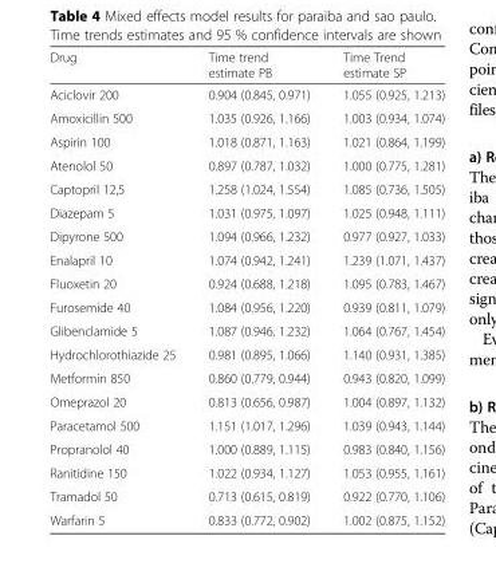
<table><thead><tr><td>Drug</td><td>Time trend estimate PB</td><td>Time Trend estimate SP</td></tr></thead><tbody><tr><td>Aciclovir 200</td><td>0.904 (0.845, 0.971)</td><td>1.055 (0.925, 1.213)</td></tr><tr><td>Amoxicillin 500</td><td>1.035 (0.926, 1.166)</td><td>1.003 (0.934, 1.074)</td></tr><tr><td>Aspirin 100</td><td>1.018 (0.871, 1.163)</td><td>1.021 (0.864, 1.199)</td></tr><tr><td>Atenolol 50</td><td>0.897 (0.787, 1.032)</td><td>1.000 (0.775, 1.281)</td></tr><tr><td>Captopril 12,5</td><td>1.258 (1.024, 1.554)</td><td>1.085 (0.736, 1.505)</td></tr><tr><td>Diazepam 5</td><td>1.031 (0.975, 1.097)</td><td>1.025 (0.948, 1.111)</td></tr><tr><td>Dipyrone 500</td><td>1.094 (0.966, 1.232)</td><td>0.977 (0.927, 1.033)</td></tr><tr><td>Enalapril 10</td><td>1.074 (0.942, 1.241)</td><td>1.239 (1.071, 1.437)</td></tr><tr><td>Fluoxetin 20</td><td>0.924 (0.688, 1.218)</td><td>1.095 (0.783, 1.467)</td></tr><tr><td>Furosemide 40</td><td>1.084 (0.956, 1.220)</td><td>0.939 (0.811, 1.079)</td></tr><tr><td>Glibenclamide 5</td><td>1.087 (0.946, 1.232)</td><td>1.064 (0.767, 1.454)</td></tr><tr><td>Hydrochlorothiazide 25</td><td>0.981 (0.895, 1.066)</td><td>1.140 (0.931, 1.385)</td></tr><tr><td>Metformin 850</td><td>0.860 (0.779, 0.944)</td><td>0.943 (0.820, 1.099)</td></tr><tr><td>Omeprazol 20</td><td>0.813 (0.656, 0.987)</td><td>1.004 (0.897, 1.132)</td></tr><tr><td>Paracetamol 500</td><td>1.151 (1.017, 1.296)</td><td>1.039 (0.943, 1.144)</td></tr><tr><td>Propranolol 40</td><td>1.000 (0.889, 1.115)</td><td>0.983 (0.840, 1.156)</td></tr><tr><td>Ranitidine 150</td><td>1.022 (0.934, 1.127)</td><td>1.053 (0.955, 1.161)</td></tr><tr><td>Tramadol 50</td><td>0.713 (0.615, 0.819)</td><td>0.922 (0.770, 1.106)</td></tr><tr><td>Warfarin 5</td><td>0.833 (0.772, 0.902)</td><td>1.002 (0.875, 1.152)</td></tr></tbody></table>